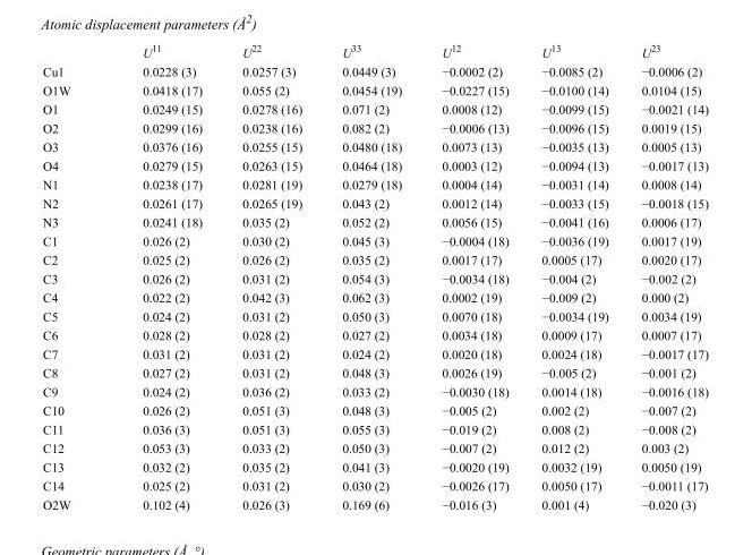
<table><thead><tr><td></td><td>U<sup>11</sup></td><td>U<sup>22</sup></td><td>U<sup>33</sup></td><td>U<sup>12</sup></td><td>U<sup>13</sup></td><td>U<sup>23</sup></td></tr></thead><tbody><tr><td>Cu1</td><td>0.0228 (3)</td><td>0.0257 (3)</td><td>0.0449 (3)</td><td>−0.0002 (2)</td><td>−0.0085 (2)</td><td>−0.0006 (2)</td></tr><tr><td>O1W</td><td>0.0418 (17)</td><td>0.055 (2)</td><td>0.0454 (19)</td><td>−0.0227 (15)</td><td>−0.0100 (14)</td><td>0.0104 (15)</td></tr><tr><td>O1</td><td>0.0249 (15)</td><td>0.0278 (16)</td><td>0.071 (2)</td><td>0.0008 (12)</td><td>−0.0099 (15)</td><td>−0.0021 (14)</td></tr><tr><td>O2</td><td>0.0299 (16)</td><td>0.0238 (16)</td><td>0.082 (2)</td><td>−0.0006 (13)</td><td>−0.0096 (15)</td><td>0.0019 (15)</td></tr><tr><td>O3</td><td>0.0376 (16)</td><td>0.0255 (15)</td><td>0.0480 (18)</td><td>0.0073 (13)</td><td>−0.0035 (13)</td><td>0.0005 (13)</td></tr><tr><td>O4</td><td>0.0279 (15)</td><td>0.0263 (15)</td><td>0.0464 (18)</td><td>0.0003 (12)</td><td>−0.0094 (13)</td><td>−0.0017 (13)</td></tr><tr><td>N1</td><td>0.0238 (17)</td><td>0.0281 (19)</td><td>0.0279 (18)</td><td>0.0004 (14)</td><td>−0.0031 (14)</td><td>0.0008 (14)</td></tr><tr><td>N2</td><td>0.0261 (17)</td><td>0.0265 (19)</td><td>0.043 (2)</td><td>0.0012 (14)</td><td>−0.0033 (15)</td><td>−0.0018 (15)</td></tr><tr><td>N3</td><td>0.0241 (18)</td><td>0.035 (2)</td><td>0.052 (2)</td><td>0.0056 (15)</td><td>−0.0041 (16)</td><td>0.0006 (17)</td></tr><tr><td>C1</td><td>0.026 (2)</td><td>0.030 (2)</td><td>0.045 (3)</td><td>−0.0004 (18)</td><td>−0.0036 (19)</td><td>0.0017 (19)</td></tr><tr><td>C2</td><td>0.025 (2)</td><td>0.026 (2)</td><td>0.035 (2)</td><td>0.0017 (17)</td><td>0.0005 (17)</td><td>0.0020 (17)</td></tr><tr><td>C3</td><td>0.026 (2)</td><td>0.031 (2)</td><td>0.054 (3)</td><td>−0.0034 (18)</td><td>−0.004 (2)</td><td>−0.002 (2)</td></tr><tr><td>C4</td><td>0.022 (2)</td><td>0.042 (3)</td><td>0.062 (3)</td><td>0.0002 (19)</td><td>−0.009 (2)</td><td>0.000 (2)</td></tr><tr><td>C5</td><td>0.024 (2)</td><td>0.031 (2)</td><td>0.050 (3)</td><td>0.0070 (18)</td><td>−0.0034 (19)</td><td>0.0034 (19)</td></tr><tr><td>C6</td><td>0.028 (2)</td><td>0.028 (2)</td><td>0.027 (2)</td><td>0.0034 (18)</td><td>0.0009 (17)</td><td>0.0007 (17)</td></tr><tr><td>C7</td><td>0.031 (2)</td><td>0.031 (2)</td><td>0.024 (2)</td><td>0.0020 (18)</td><td>0.0024 (18)</td><td>−0.0017 (17)</td></tr><tr><td>C8</td><td>0.027 (2)</td><td>0.031 (2)</td><td>0.048 (3)</td><td>0.0026 (19)</td><td>−0.005 (2)</td><td>−0.001 (2)</td></tr><tr><td>C9</td><td>0.024 (2)</td><td>0.036 (2)</td><td>0.033 (2)</td><td>−0.0030 (18)</td><td>0.0014 (18)</td><td>−0.0016 (18)</td></tr><tr><td>C10</td><td>0.026 (2)</td><td>0.051 (3)</td><td>0.048 (3)</td><td>−0.005 (2)</td><td>0.002 (2)</td><td>−0.007 (2)</td></tr><tr><td>C11</td><td>0.036 (3)</td><td>0.051 (3)</td><td>0.055 (3)</td><td>−0.019 (2)</td><td>0.008 (2)</td><td>−0.008 (2)</td></tr><tr><td>C12</td><td>0.053 (3)</td><td>0.033 (2)</td><td>0.050 (3)</td><td>−0.007 (2)</td><td>0.012 (2)</td><td>0.003 (2)</td></tr><tr><td>C13</td><td>0.032 (2)</td><td>0.035 (2)</td><td>0.041 (3)</td><td>−0.0020 (19)</td><td>0.0032 (19)</td><td>0.0050 (19)</td></tr><tr><td>C14</td><td>0.025 (2)</td><td>0.031 (2)</td><td>0.030 (2)</td><td>−0.0026 (17)</td><td>0.0050 (17)</td><td>−0.0011 (17)</td></tr><tr><td>O2W</td><td>0.102 (4)</td><td>0.026 (3)</td><td>0.169 (6)</td><td>−0.016 (3)</td><td>0.001 (4)</td><td>−0.020 (3)</td></tr></tbody></table>